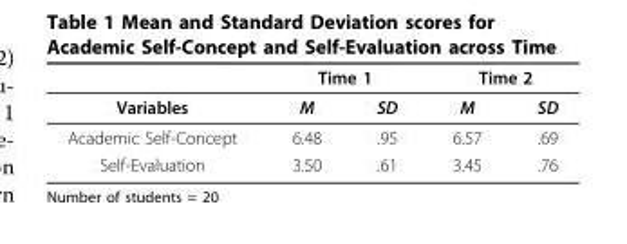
<table><thead><tr><td rowspan="2">Variables</td><td colspan="2">Time 1</td><td colspan="2">Time 2</td></tr><tr><td>M</td><td>SD</td><td>M</td><td>SD</td></tr></thead><tbody><tr><td>Academic Self-Concept</td><td>6.48</td><td>.95</td><td>6.57</td><td>.69</td></tr><tr><td>Self-Evaluation</td><td>3.50</td><td>.61</td><td>3.45</td><td>.76</td></tr></tbody></table>